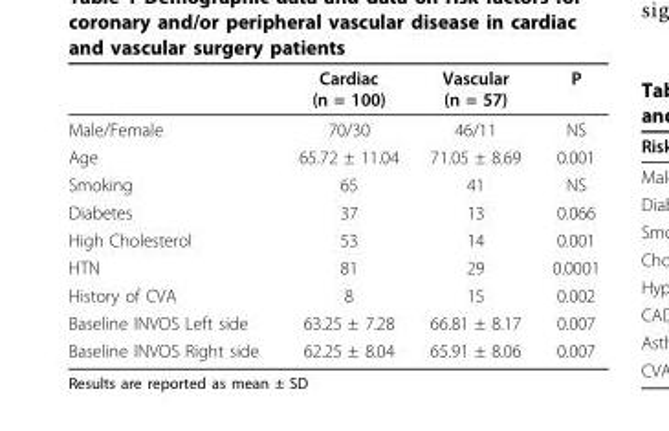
<table><thead><tr><td></td><td>Cardiac (n = 100)</td><td>Vascular (n = 57)</td><td>P</td></tr></thead><tbody><tr><td>Male/Female</td><td>70/30</td><td>46/11</td><td>NS</td></tr><tr><td>Age</td><td>65.72 ± 11.04</td><td>71.05 ± 8.69</td><td>0.001</td></tr><tr><td>Smoking</td><td>65</td><td>41</td><td>NS</td></tr><tr><td>Diabetes</td><td>37</td><td>13</td><td>0.066</td></tr><tr><td>High Cholesterol</td><td>53</td><td>14</td><td>0.001</td></tr><tr><td>HTN</td><td>81</td><td>29</td><td>0.0001</td></tr><tr><td>History of CVA</td><td>8</td><td>15</td><td>0.002</td></tr><tr><td>Baseline INVOS Left side</td><td>63.25 ± 7.28</td><td>66.81 ± 8.17</td><td>0.007</td></tr><tr><td>Baseline INVOS Right side</td><td>62.25 ± 8.04</td><td>65.91 ± 8.06</td><td>0.007</td></tr></tbody></table>